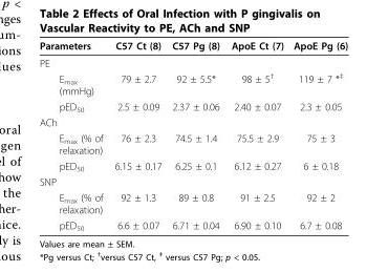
<table><thead><tr><td>Parameters</td><td>C57 Ct (8)</td><td>C57 Pg (8)</td><td>ApoE Ct (7)</td><td>ApoE Pg (6)</td></tr></thead><tbody><tr><td colspan="5">PE</td></tr><tr><td>E<sub>max</sub> (mmHg)</td><td>79 ± 2.7</td><td>92 ± 5.5*</td><td>98 ± 5<sup>†</sup></td><td>119 ± 7 *<sup>‡</sup></td></tr><tr><td>pED<sub>50</sub></td><td>2.5 ± 0.09</td><td>2.37 ± 0.06</td><td>2.40 ± 0.07</td><td>2.3 ± 0.05</td></tr><tr><td colspan="5">ACh</td></tr><tr><td>E<sub>max</sub> (% of relaxation)</td><td>76 ± 2.3</td><td>74.5 ± 1.4</td><td>75.5 ± 2.9</td><td>75 ± 3</td></tr><tr><td>pED<sub>50</sub></td><td>6.15 ± 0.17</td><td>6.25 ± 0.1</td><td>6.12 ± 0.27</td><td>6 ± 0.18</td></tr><tr><td colspan="5">SNP</td></tr><tr><td>E<sub>max</sub> (% of relaxation)</td><td>92 ± 1.3</td><td>89 ± 0.8</td><td>91 ± 2.5</td><td>92 ± 2</td></tr><tr><td>pED<sub>50</sub></td><td>6.6 ± 0.07</td><td>6.71 ± 0.04</td><td>6.90 ± 0.10</td><td>6.7 ± 0.08</td></tr></tbody></table>